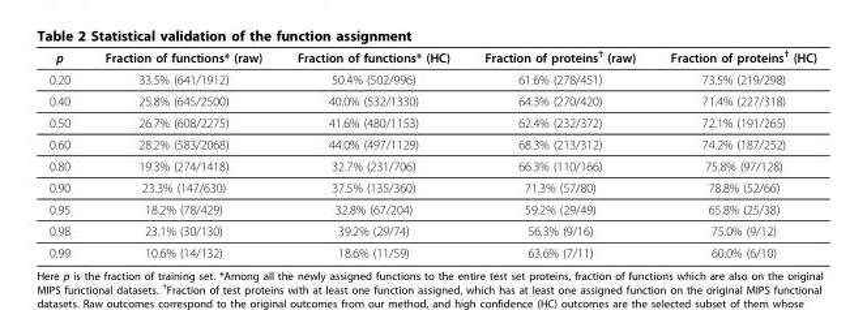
<table><thead><tr><td>p</td><td>Fraction of functions* (raw)</td><td>Fraction of functions* (HC)</td><td>Fraction of proteins<sup>†</sup> (raw)</td><td>Fraction of proteins<sup>†</sup> (HC)</td></tr></thead><tbody><tr><td>0.20</td><td>33.5% (641/1912)</td><td>50.4% (502/996)</td><td>61.6% (278/451)</td><td>73.5% (219/298)</td></tr><tr><td>0.40</td><td>25.8% (645/2500)</td><td>40.0% (532/1330)</td><td>64.3% (270/420)</td><td>71.4% (227/318)</td></tr><tr><td>0.50</td><td>26.7% (608/2275)</td><td>41.6% (480/1153)</td><td>62.4% (232/372)</td><td>72.1% (191/265)</td></tr><tr><td>0.60</td><td>28.2% (583/2068)</td><td>44.0% (497/1129)</td><td>68.3% (213/312)</td><td>74.2% (187/252)</td></tr><tr><td>0.80</td><td>19.3% (274/1418)</td><td>32.7% (231/706)</td><td>66.3% (110/166)</td><td>75.8% (97/128)</td></tr><tr><td>0.90</td><td>23.3% (147/630)</td><td>37.5% (135/360)</td><td>71.3% (57/80)</td><td>78.8% (52/66)</td></tr><tr><td>0.95</td><td>18.2% (78/429)</td><td>32.8% (67/204)</td><td>59.2% (29/49)</td><td>65.8% (25/38)</td></tr><tr><td>0.98</td><td>23.1% (30/130)</td><td>39.2% (29/74)</td><td>56.3% (9/16)</td><td>75.0% (9/12)</td></tr><tr><td>0.99</td><td>10.6% (14/132)</td><td>18.6% (11/59)</td><td>63.6% (7/11)</td><td>60.0% (6/10)</td></tr></tbody></table>